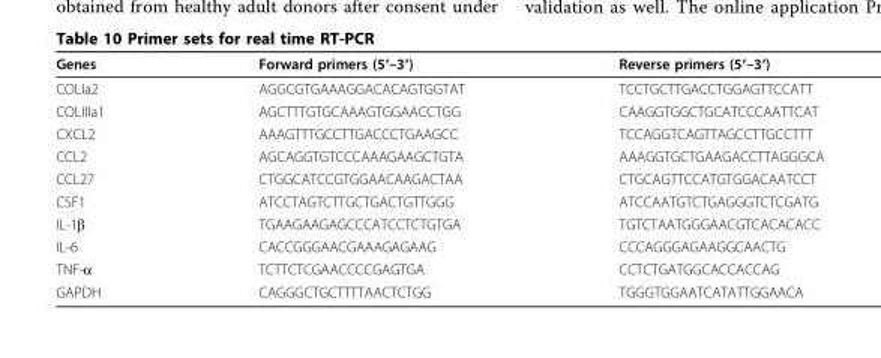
<table><thead><tr><td>Genes</td><td>Forward primers (5′–3′)</td><td>Reverse primers (5′–3′)</td></tr></thead><tbody><tr><td>COLIa2</td><td>AGGCGTGAAAGGACACAGTGGTAT</td><td>TCCTGCTTGACCTGGAGTTCCATT</td></tr><tr><td>COLIIIa1</td><td>AGCTTTGTGCAAAGTGGAACCTGG</td><td>CAAGGTGGCTGCATCCCAATTCAT</td></tr><tr><td>CXCL2</td><td>AAAGTTTGCCTTGACCCTGAAGCC</td><td>TCCAGGTCAGTTAGCCTTGCCTTT</td></tr><tr><td>CCL2</td><td>AGCAGGTGTCCCAAAGAAGCTGTA</td><td>AAAGGTGCTGAAGACCTTAGGGCA</td></tr><tr><td>CCL27</td><td>CTGGCATCCGTGGAACAAGACTAA</td><td>CTGCAGTTCCATGTGGACAATCCT</td></tr><tr><td>CSF1</td><td>ATCCTAGTCTTGCTGACTGTTGGG</td><td>ATCCAATGTCTGAGGGTCTCGATG</td></tr><tr><td>IL-1β</td><td>TGAAGAAGAGCCCATCCTCTGTGA</td><td>TGTCTAATGGGAACGTCACACACC</td></tr><tr><td>IL-6</td><td>CACCGGGAACGAAAGAGAAG</td><td>CCCAGGGAGAAGGCAACTG</td></tr><tr><td>TNF-α</td><td>TCTTCTCGAACCCCGAGTGA</td><td>CCTCTGATGGCACCACCAG</td></tr><tr><td>GAPDH</td><td>CAGGGCTGCTTTTAACTCTGG</td><td>TGGGTGGAATCATATTGGAACA</td></tr></tbody></table>